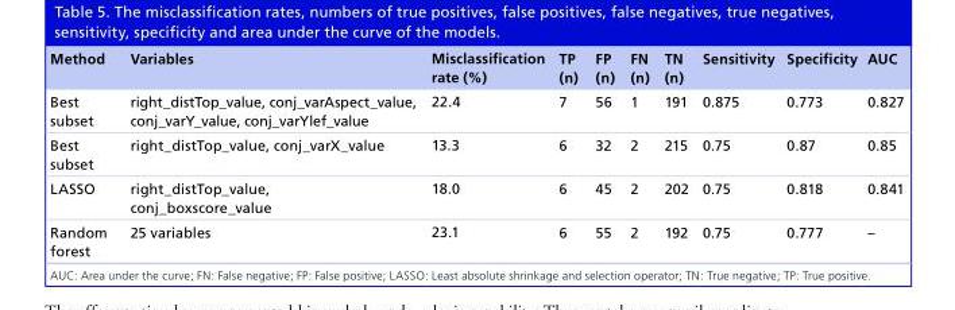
<table><thead><tr><td>Method</td><td>Variables</td><td>Misclassification rate (%)</td><td>TP (n)</td><td>FP (n)</td><td>FN (n)</td><td>TN (n)</td><td>Sensitivity</td><td>Specificity</td><td>AUC</td></tr></thead><tbody><tr><td>Best subset</td><td>right_distTop_value, conj_varAspect_value, conj_varY_value, conj_varYlef_value</td><td>22.4</td><td>7</td><td>56</td><td>1</td><td>191</td><td>0.875</td><td>0.773</td><td>0.827</td></tr><tr><td>Best subset</td><td>right_distTop_value, conj_varX_value</td><td>13.3</td><td>6</td><td>32</td><td>2</td><td>215</td><td>0.75</td><td>0.87</td><td>0.85</td></tr><tr><td>LASSO</td><td>right_distTop_value, conj_boxscore_value</td><td>18.0</td><td>6</td><td>45</td><td>2</td><td>202</td><td>0.75</td><td>0.818</td><td>0.841</td></tr><tr><td>Random forest</td><td>25 variables</td><td>23.1</td><td>6</td><td>55</td><td>2</td><td>192</td><td>0.75</td><td>0.777</td><td>–</td></tr></tbody></table>